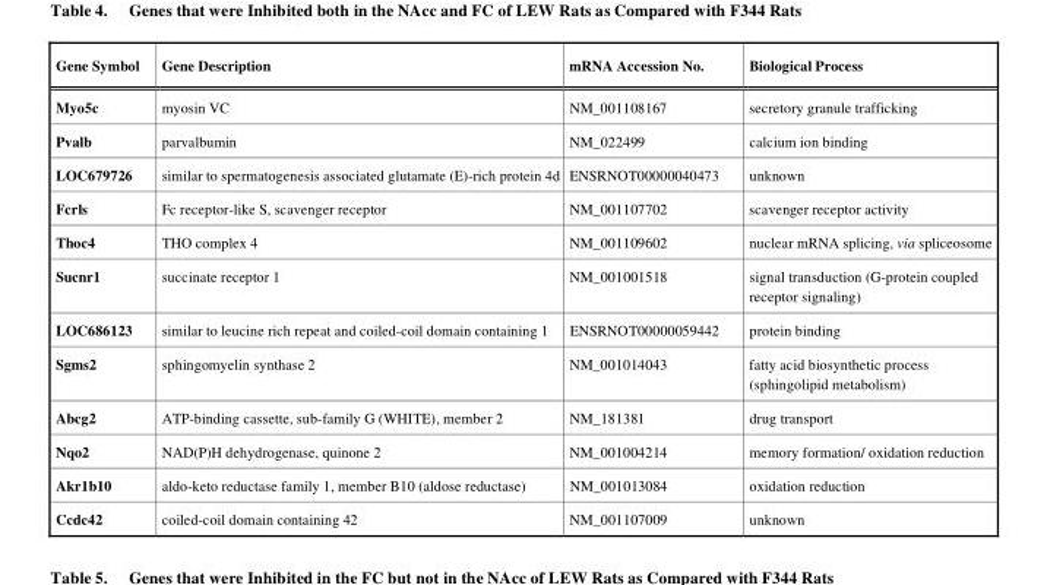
<table><thead><tr><td>Gene Symbol</td><td>Gene Description</td><td>mRNA Accession No.</td><td>Biological Process</td></tr></thead><tbody><tr><td>Myo5c</td><td>myosin VC</td><td>NM_001108167</td><td>secretory granule trafficking</td></tr><tr><td>Pvalb</td><td>parvalbumin</td><td>NM_022499</td><td>calcium ion binding</td></tr><tr><td>LOC679726</td><td>similar to spermatogenesis associated glutamate (E)-rich protein 4d</td><td>ENSRNOT00000040473</td><td>unknown</td></tr><tr><td>Fcrls</td><td>Fc receptor-like S, scavenger receptor</td><td>NM_001107702</td><td>scavenger receptor activity</td></tr><tr><td>Thoc4</td><td>THO complex 4</td><td>NM_001109602</td><td>nuclear mRNA splicing, via spliceosome</td></tr><tr><td>Sucnr1</td><td>succinate receptor 1</td><td>NM_001001518</td><td>signal transduction (G-protein coupled receptor signaling)</td></tr><tr><td>LOC686123</td><td>similar to leucine rich repeat and coiled-coil domain containing 1</td><td>ENSRNOT00000059442</td><td>protein binding</td></tr><tr><td>Sgms2</td><td>sphingomyelin synthase 2</td><td>NM_001014043</td><td>fatty acid biosynthetic process (sphingolipid metabolism)</td></tr><tr><td>Abcg2</td><td>ATP-binding cassette, sub-family G (WHITE), member 2</td><td>NM_181381</td><td>drug transport</td></tr><tr><td>Nqo2</td><td>NAD(P)H dehydrogenase, quinone 2</td><td>NM_001004214</td><td>memory formation/ oxidation reduction</td></tr><tr><td>Akr1b10</td><td>aldo-keto reductase family 1, member B10 (aldose reductase)</td><td>NM_001013084</td><td>oxidation reduction</td></tr><tr><td>Ccdc42</td><td>coiled-coil domain containing 42</td><td>NM_001107009</td><td>unknown</td></tr></tbody></table>